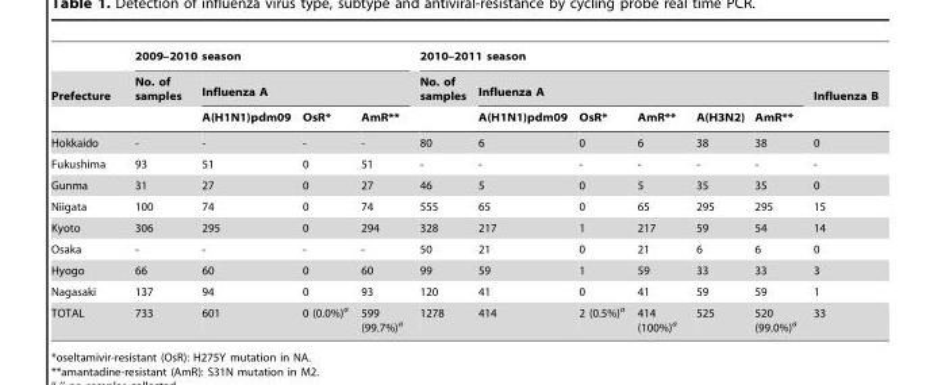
<table><thead><tr><td rowspan="3">Prefecture</td><td colspan="4">2009–2010 season</td><td colspan="7">2010–2011 season</td></tr><tr><td rowspan="2">No. of samples</td><td colspan="3">Influenza A</td><td rowspan="2">No. of samples</td><td colspan="5">Influenza A</td><td rowspan="2">Influenza B</td></tr><tr><td>A(H1N1)pdm09</td><td>OsR*</td><td>AmR**</td><td>A(H1N1)pdm09</td><td>OsR*</td><td>AmR**</td><td>A(H3N2)</td><td>AmR**</td></tr></thead><tbody><tr><td>Hokkaido</td><td>-</td><td>-</td><td>-</td><td>-</td><td>80</td><td>6</td><td>0</td><td>6</td><td>38</td><td>38</td><td>0</td></tr><tr><td>Fukushima</td><td>93</td><td>51</td><td>0</td><td>51</td><td>-</td><td>-</td><td>-</td><td>-</td><td>-</td><td>-</td><td>-</td></tr><tr><td>Gunma</td><td>31</td><td>27</td><td>0</td><td>27</td><td>46</td><td>5</td><td>0</td><td>5</td><td>35</td><td>35</td><td>0</td></tr><tr><td>Niigata</td><td>100</td><td>74</td><td>0</td><td>74</td><td>555</td><td>65</td><td>0</td><td>65</td><td>295</td><td>295</td><td>15</td></tr><tr><td>Kyoto</td><td>306</td><td>295</td><td>0</td><td>294</td><td>328</td><td>217</td><td>1</td><td>217</td><td>59</td><td>54</td><td>14</td></tr><tr><td>Osaka</td><td>-</td><td>-</td><td>-</td><td>-</td><td>50</td><td>21</td><td>0</td><td>21</td><td>6</td><td>6</td><td>0</td></tr><tr><td>Hyogo</td><td>66</td><td>60</td><td>0</td><td>60</td><td>99</td><td>59</td><td>1</td><td>59</td><td>33</td><td>33</td><td>3</td></tr><tr><td>Nagasaki</td><td>137</td><td>94</td><td>0</td><td>93</td><td>120</td><td>41</td><td>0</td><td>41</td><td>59</td><td>59</td><td>1</td></tr><tr><td>TOTAL</td><td>733</td><td>601</td><td>0 (0.0%)<sup>a</sup></td><td>599 (99.7%)<sup>a</sup></td><td>1278</td><td>414</td><td>2 (0.5%)<sup>a</sup></td><td>414 (100%)<sup>a</sup></td><td>525</td><td>520 (99.0%)<sup>a</sup></td><td>33</td></tr></tbody></table>